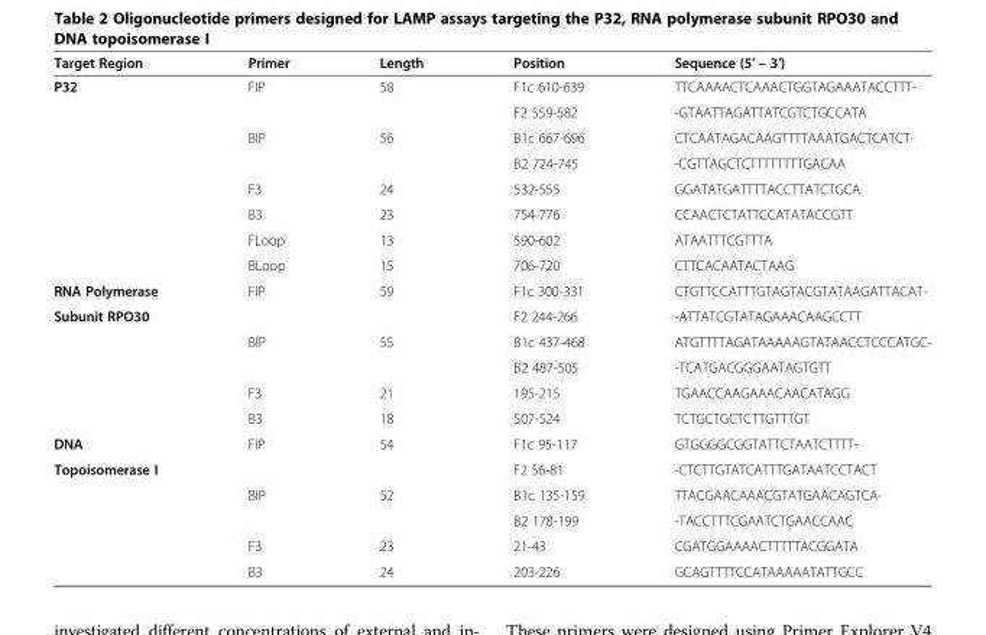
<table><thead><tr><td>Target Region</td><td>Primer</td><td>Length</td><td>Position</td><td>Sequence (5′ – 3′)</td></tr></thead><tbody><tr><td rowspan="8">P32</td><td>FIP</td><td>58</td><td>F1c 610-639</td><td>TTCAAAACTCAAACTGGTAGAAATACCTTT-</td></tr><tr><td></td><td></td><td>F2 559-582</td><td>-GTAATTAGATTATCGTCTGCCATA</td></tr><tr><td>BIP</td><td>56</td><td>B1c 667-696</td><td>CTCAATAGACAAGTTTTAAATGACTCATCT-</td></tr><tr><td></td><td></td><td>B2 724-745</td><td>-CGTTAGCTCTTTTTTTTGACAA</td></tr><tr><td>F3</td><td>24</td><td>532-555</td><td>GGATATGATTTTACCTTATCTGCA</td></tr><tr><td>B3</td><td>23</td><td>754-776</td><td>CCAACTCTATTCCATATACCGTT</td></tr><tr><td>FLoop</td><td>13</td><td>590-602</td><td>ATAATTTCGTTTA</td></tr><tr><td>BLoop</td><td>15</td><td>706-720</td><td>CTTCACAATACTAAG</td></tr><tr><td>RNA Polymerase</td><td>FIP</td><td>59</td><td>F1c 300-331</td><td>CTGTTCCATTTGTAGTACGTATAAGATTACAT-</td></tr><tr><td rowspan="5">Subunit RPO30</td><td></td><td></td><td>F2 244-266</td><td>-ATTATCGTATAGAAACAAGCCTT</td></tr><tr><td>BIP</td><td>55</td><td>B1c 437-468</td><td>ATGTTTTAGATAAAAAGTATAACCTCCCATGC-</td></tr><tr><td></td><td></td><td>B2 487-505</td><td>-TCATGACGGGAATAGTGTT</td></tr><tr><td>F3</td><td>21</td><td>195-215</td><td>TGAACCAAGAAACAACATAGG</td></tr><tr><td>B3</td><td>18</td><td>507-524</td><td>TCTGCTGCTCTTGTTTGT</td></tr><tr><td>DNA</td><td>FIP</td><td>54</td><td>F1c 95-117</td><td>GTGGGGCGGTATTCTAATCTTTT-</td></tr><tr><td rowspan="5">Topoisomerase I</td><td></td><td></td><td>F2 56-81</td><td>-CTCTTGTATCATTTGATAATCCTACT</td></tr><tr><td>BIP</td><td>52</td><td>B1c 135-159</td><td>TTACGAACAAACGTATGAACAGTCA-</td></tr><tr><td></td><td></td><td>B2 178-199</td><td>-TACCTTTCGAATCTGAACCAAC</td></tr><tr><td>F3</td><td>23</td><td>21-43</td><td>CGATGGAAAACTTTTTACGGATA</td></tr><tr><td>B3</td><td>24</td><td>203-226</td><td>GCAGTTTTCCATAAAAATATTGCC</td></tr></tbody></table>